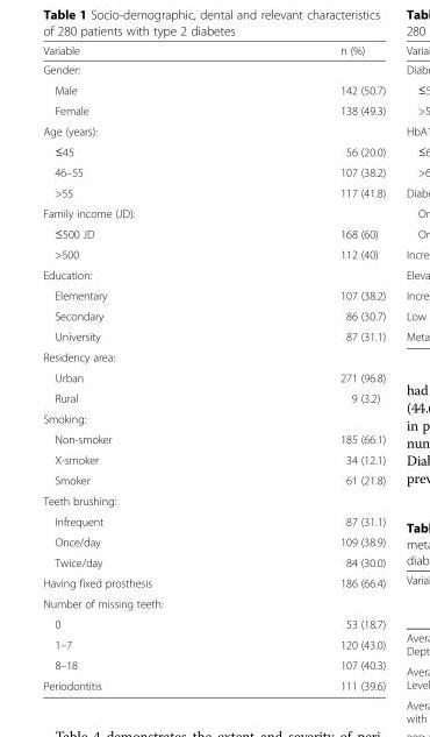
<table><thead><tr><td>Variable</td><td>n (%)</td></tr></thead><tbody><tr><td colspan="2">Gender:</td></tr><tr><td>Male</td><td>142 (50.7)</td></tr><tr><td>Female</td><td>138 (49.3)</td></tr><tr><td colspan="2">Age (years):</td></tr><tr><td>≤45</td><td>56 (20.0)</td></tr><tr><td>46–55</td><td>107 (38.2)</td></tr><tr><td>&gt;55</td><td>117 (41.8)</td></tr><tr><td colspan="2">Family income (JD):</td></tr><tr><td>≤500 JD</td><td>168 (60)</td></tr><tr><td>&gt;500</td><td>112 (40)</td></tr><tr><td colspan="2">Education:</td></tr><tr><td>Elementary</td><td>107 (38.2)</td></tr><tr><td>Secondary</td><td>86 (30.7)</td></tr><tr><td>University</td><td>87 (31.1)</td></tr><tr><td colspan="2">Residency area:</td></tr><tr><td>Urban</td><td>271 (96.8)</td></tr><tr><td>Rural</td><td>9 (3.2)</td></tr><tr><td colspan="2">Smoking:</td></tr><tr><td>Non-smoker</td><td>185 (66.1)</td></tr><tr><td>X-smoker</td><td>34 (12.1)</td></tr><tr><td>Smoker</td><td>61 (21.8)</td></tr><tr><td colspan="2">Teeth brushing:</td></tr><tr><td>Infrequent</td><td>87 (31.1)</td></tr><tr><td>Once/day</td><td>109 (38.9)</td></tr><tr><td>Twice/day</td><td>84 (30.0)</td></tr><tr><td>Having fixed prosthesis</td><td>186 (66.4)</td></tr><tr><td colspan="2">Number of missing teeth:</td></tr><tr><td>0</td><td>53 (18.7)</td></tr><tr><td>1–7</td><td>120 (43.0)</td></tr><tr><td>8–18</td><td>107 (40.3)</td></tr><tr><td>Periodontitis</td><td>111 (39.6)</td></tr></tbody></table>